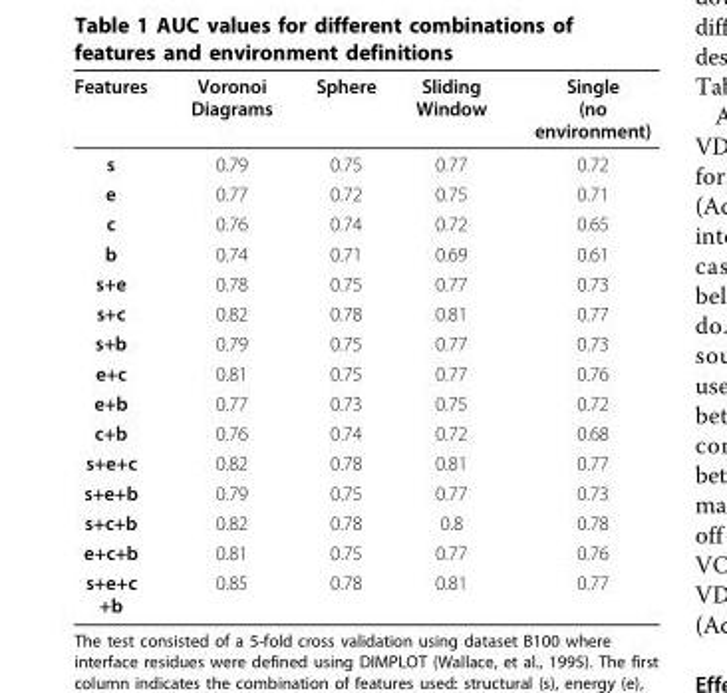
<table><thead><tr><td>Features</td><td>Voronoi Diagrams</td><td>Sphere</td><td>Sliding Window</td><td>Single (no environment)</td></tr></thead><tbody><tr><td>s</td><td>0.79</td><td>0.75</td><td>0.77</td><td>0.72</td></tr><tr><td>e</td><td>0.77</td><td>0.72</td><td>0.75</td><td>0.71</td></tr><tr><td>c</td><td>0.76</td><td>0.74</td><td>0.72</td><td>0.65</td></tr><tr><td>b</td><td>0.74</td><td>0.71</td><td>0.69</td><td>0.61</td></tr><tr><td>s+e</td><td>0.78</td><td>0.75</td><td>0.77</td><td>0.73</td></tr><tr><td>s+c</td><td>0.82</td><td>0.78</td><td>0.81</td><td>0.77</td></tr><tr><td>s+b</td><td>0.79</td><td>0.75</td><td>0.77</td><td>0.73</td></tr><tr><td>e+c</td><td>0.81</td><td>0.75</td><td>0.77</td><td>0.76</td></tr><tr><td>e+b</td><td>0.77</td><td>0.73</td><td>0.75</td><td>0.72</td></tr><tr><td>c+b</td><td>0.76</td><td>0.74</td><td>0.72</td><td>0.68</td></tr><tr><td>s+e+c</td><td>0.82</td><td>0.78</td><td>0.81</td><td>0.77</td></tr><tr><td>s+e+b</td><td>0.79</td><td>0.75</td><td>0.77</td><td>0.73</td></tr><tr><td>s+c+b</td><td>0.82</td><td>0.78</td><td>0.8</td><td>0.78</td></tr><tr><td>e+c+b</td><td>0.81</td><td>0.75</td><td>0.77</td><td>0.76</td></tr><tr><td>s+e+c +b</td><td>0.85</td><td>0.78</td><td>0.81</td><td>0.77</td></tr></tbody></table>